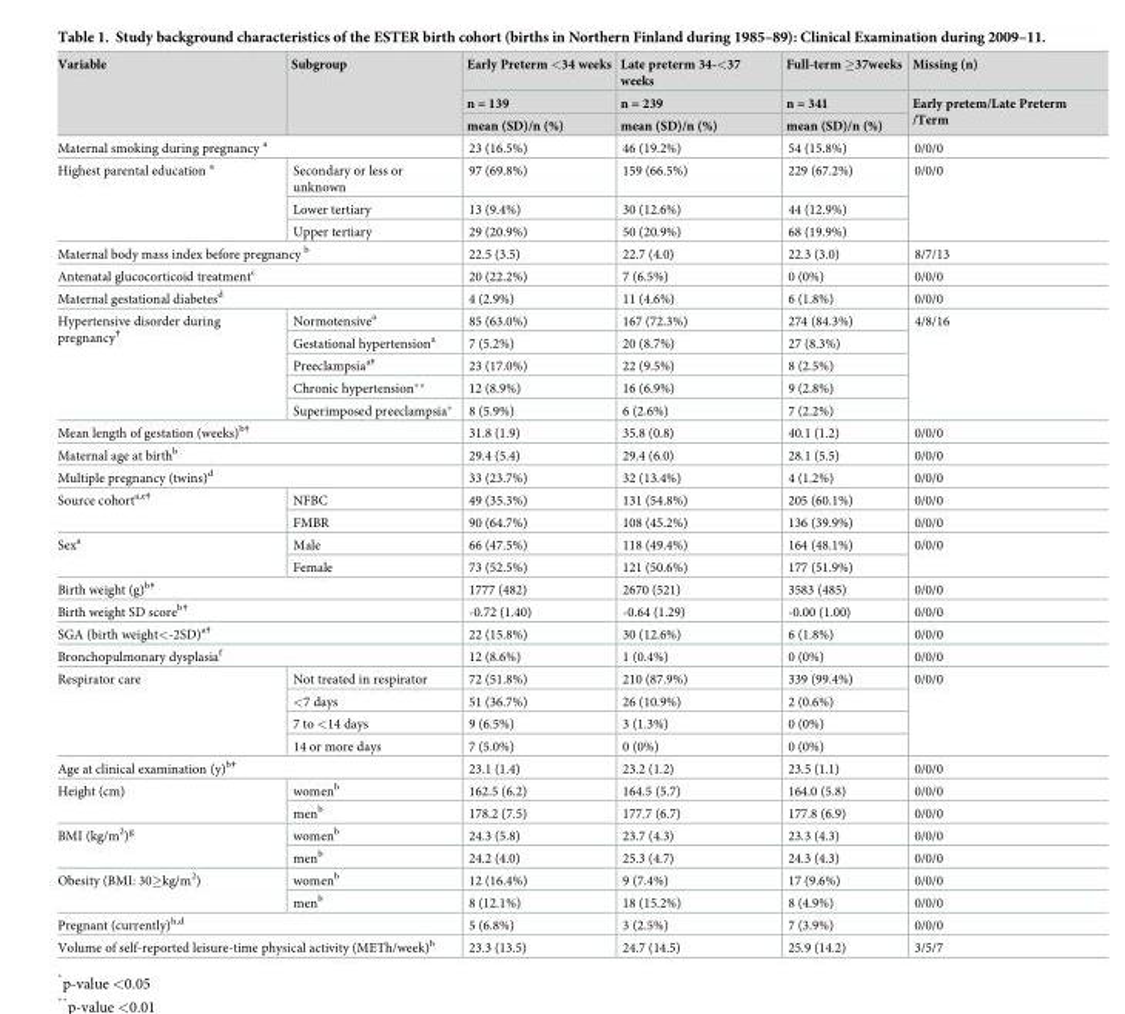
<table><thead><tr><td rowspan="3">Variable</td><td rowspan="3">Subgroup</td><td rowspan="3">Early Preterm &lt;34 weeks n = 139 mean (SD)/n (%)</td><td rowspan="3">Late preterm 34-&lt;37 weeks n = 239 mean (SD)/n (%)</td><td rowspan="3">Full-term ≥37weeks n = 341 mean (SD)/n (%)</td><td rowspan="3">Missing (n) Early pretem/Late Preterm /Term</td></tr><tr></tr><tr></tr></thead><tbody><tr><td colspan="2">Maternal smoking during pregnancy <sup>a</sup></td><td>23 (16.5%)</td><td>46 (19.2%)</td><td>54 (15.8%)</td><td>0/0/0</td></tr><tr><td rowspan="3">Highest parental education <sup>a</sup></td><td>Secondary or less or unknown</td><td>97 (69.8%)</td><td>159 (66.5%)</td><td>229 (67.2%)</td><td rowspan="3">0/0/0</td></tr><tr><td>Lower tertiary</td><td>13 (9.4%)</td><td>30 (12.6%)</td><td>44 (12.9%)</td></tr><tr><td>Upper tertiary</td><td>29 (20.9%)</td><td>50 (20.9%)</td><td>68 (19.9%)</td></tr><tr><td colspan="2">Maternal body mass index before pregnancy <sup>b</sup></td><td>22.5 (3.5)</td><td>22.7 (4.0)</td><td>22.3 (3.0)</td><td>8/7/13</td></tr><tr><td colspan="2">Antenatal glucocorticoid treatment<sup>c</sup></td><td>20 (22.2%)</td><td>7 (6.5%)</td><td>0 (0%)</td><td>0/0/0</td></tr><tr><td colspan="2">Maternal gestational diabetes<sup>d</sup></td><td>4 (2.9%)</td><td>11 (4.6%)</td><td>6 (1.8%)</td><td>0/0/0</td></tr><tr><td rowspan="5">Hypertensive disorder during pregnancy<sup>†</sup></td><td>Normotensive<sup>a</sup></td><td>85 (63.0%)</td><td>167 (72.3%)</td><td>274 (84.3%)</td><td rowspan="5">4/8/16</td></tr><tr><td>Gestational hypertension<sup>a</sup></td><td>7 (5.2%)</td><td>20 (8.7%)</td><td>27 (8.3%)</td></tr><tr><td>Preeclampsia<sup>a†</sup></td><td>23 (17.0%)</td><td>22 (9.5%)</td><td>8 (2.5%)</td></tr><tr><td>Chronic hypertension**</td><td>12 (8.9%)</td><td>16 (6.9%)</td><td>9 (2.8%)</td></tr><tr><td>Superimposed preeclampsia*</td><td>8 (5.9%)</td><td>6 (2.6%)</td><td>7 (2.2%)</td></tr><tr><td colspan="2">Mean length of gestation (weeks)<sup>b†</sup></td><td>31.8 (1.9)</td><td>35.8 (0.8)</td><td>40.1 (1.2)</td><td>0/0/0</td></tr><tr><td colspan="2">Maternal age at birth<sup>b</sup></td><td>29.4 (5.4)</td><td>29.4 (6.0)</td><td>28.1 (5.5)</td><td>0/0/0</td></tr><tr><td colspan="2">Multiple pregnancy (twins)<sup>d</sup></td><td>33 (23.7%)</td><td>32 (13.4%)</td><td>4 (1.2%)</td><td>0/0/0</td></tr><tr><td rowspan="2">Source cohort<sup>a,e†</sup></td><td>NFBC</td><td>49 (35.3%)</td><td>131 (54.8%)</td><td>205 (60.1%)</td><td>0/0/0</td></tr><tr><td>FMBR</td><td>90 (64.7%)</td><td>108 (45.2%)</td><td>136 (39.9%)</td><td>0/0/0</td></tr><tr><td rowspan="2">Sex<sup>a</sup></td><td>Male</td><td>66 (47.5%)</td><td>118 (49.4%)</td><td>164 (48.1%)</td><td rowspan="2">0/0/0</td></tr><tr><td>Female</td><td>73 (52.5%)</td><td>121 (50.6%)</td><td>177 (51.9%)</td></tr><tr><td colspan="2">Birth weight (g)<sup>b†</sup></td><td>1777 (482)</td><td>2670 (521)</td><td>3583 (485)</td><td>0/0/0</td></tr><tr><td colspan="2">Birth weight SD score<sup>b†</sup></td><td>-0.72 (1.40)</td><td>-0.64 (1.29)</td><td>-0.00 (1.00)</td><td>0/0/0</td></tr><tr><td colspan="2">SGA (birth weight&lt;-2SD)<sup>a†</sup></td><td>22 (15.8%)</td><td>30 (12.6%)</td><td>6 (1.8%)</td><td>0/0/0</td></tr><tr><td colspan="2">Bronchopulmonary dysplasia<sup>f</sup></td><td>12 (8.6%)</td><td>1 (0.4%)</td><td>0 (0%)</td><td>0/0/0</td></tr><tr><td rowspan="4">Respirator care</td><td>Not treated in respirator</td><td>72 (51.8%)</td><td>210 (87.9%)</td><td>339 (99.4%)</td><td rowspan="4">0/0/0</td></tr><tr><td>&lt;7 days</td><td>51 (36.7%)</td><td>26 (10.9%)</td><td>2 (0.6%)</td></tr><tr><td>7 to &lt;14 days</td><td>9 (6.5%)</td><td>3 (1.3%)</td><td>0 (0%)</td></tr><tr><td>14 or more days</td><td>7 (5.0%)</td><td>0 (0%)</td><td>0 (0%)</td></tr><tr><td colspan="2">Age at clinical examination (y)<sup>b†</sup></td><td>23.1 (1.4)</td><td>23.2 (1.2)</td><td>23.5 (1.1)</td><td>0/0/0</td></tr><tr><td rowspan="2">Height (cm)</td><td>women<sup>b</sup></td><td>162.5 (6.2)</td><td>164.5 (5.7)</td><td>164.0 (5.8)</td><td>0/0/0</td></tr><tr><td>men<sup>b</sup></td><td>178.2 (7.5)</td><td>177.7 (6.7)</td><td>177.8 (6.9)</td><td>0/0/0</td></tr><tr><td rowspan="2">BMI (kg/m<sup>2</sup>)<sup>g</sup></td><td>women<sup>b</sup></td><td>24.3 (5.8)</td><td>23.7 (4.3)</td><td>23.3 (4.3)</td><td>0/0/0</td></tr><tr><td>men<sup>b</sup></td><td>24.2 (4.0)</td><td>25.3 (4.7)</td><td>24.3 (4.3)</td><td>0/0/0</td></tr><tr><td rowspan="2">Obesity (BMI: 30≥kg/m<sup>2</sup>)</td><td>women<sup>b</sup></td><td>12 (16.4%)</td><td>9 (7.4%)</td><td>17 (9.6%)</td><td>0/0/0</td></tr><tr><td>men<sup>b</sup></td><td>8 (12.1%)</td><td>18 (15.2%)</td><td>8 (4.9%)</td><td>0/0/0</td></tr><tr><td colspan="2">Pregnant (currently)<sup>h,d</sup></td><td>5 (6.8%)</td><td>3 (2.5%)</td><td>7 (3.9%)</td><td>0/0/0</td></tr><tr><td colspan="2">Volume of self-reported leisure-time physical activity (METh/week)<sup>b</sup></td><td>23.3 (13.5)</td><td>24.7 (14.5)</td><td>25.9 (14.2)</td><td>3/5/7</td></tr></tbody></table>